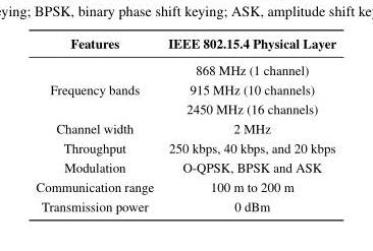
<table><thead><tr><td>Features</td><td>IEEE 802.15.4 Physical Layer</td></tr></thead><tbody><tr><td rowspan="3">Frequency bands</td><td>868 MHz (1 channel)</td></tr><tr><td>915 MHz (10 channels)</td></tr><tr><td>2450 MHz (16 channels)</td></tr><tr><td>Channel width</td><td>2 MHz</td></tr><tr><td>Throughput</td><td>250 kbps, 40 kbps, and 20 kbps</td></tr><tr><td>Modulation</td><td>O-QPSK, BPSK and ASK</td></tr><tr><td>Communication range</td><td>100 m to 200 m</td></tr><tr><td>Transmission power</td><td>0 dBm</td></tr></tbody></table>